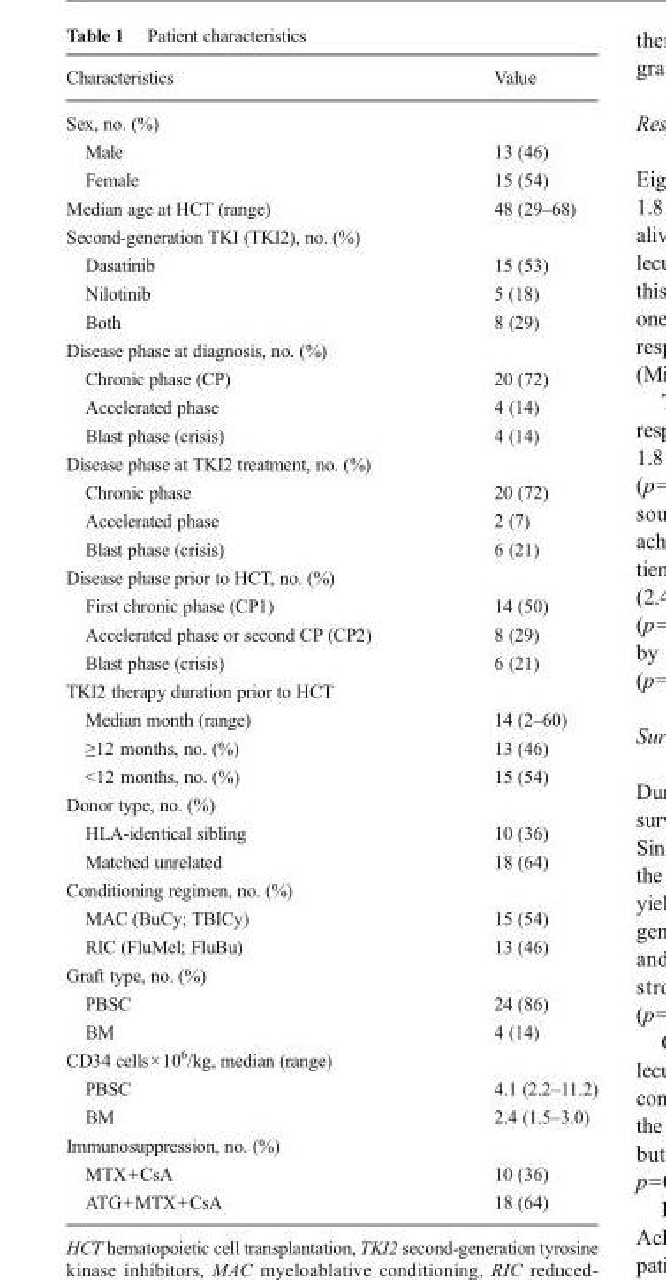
<table><thead><tr><td>Characteristics</td><td>Value</td></tr></thead><tbody><tr><td colspan="2">Sex, no. (%)</td></tr><tr><td>Male</td><td>13 (46)</td></tr><tr><td>Female</td><td>15 (54)</td></tr><tr><td>Median age at HCT (range)</td><td>48 (29–68)</td></tr><tr><td colspan="2">Second-generation TKI (TKI2), no. (%)</td></tr><tr><td>Dasatinib</td><td>15 (53)</td></tr><tr><td>Nilotinib</td><td>5 (18)</td></tr><tr><td>Both</td><td>8 (29)</td></tr><tr><td colspan="2">Disease phase at diagnosis, no. (%)</td></tr><tr><td>Chronic phase (CP)</td><td>20 (72)</td></tr><tr><td>Accelerated phase</td><td>4 (14)</td></tr><tr><td>Blast phase (crisis)</td><td>4 (14)</td></tr><tr><td colspan="2">Disease phase at TKI2 treatment, no. (%)</td></tr><tr><td>Chronic phase</td><td>20 (72)</td></tr><tr><td>Accelerated phase</td><td>2 (7)</td></tr><tr><td>Blast phase (crisis)</td><td>6 (21)</td></tr><tr><td colspan="2">Disease phase prior to HCT, no. (%)</td></tr><tr><td>First chronic phase (CP1)</td><td>14 (50)</td></tr><tr><td>Accelerated phase or second CP (CP2)</td><td>8 (29)</td></tr><tr><td>Blast phase (crisis)</td><td>6 (21)</td></tr><tr><td colspan="2">TKI2 therapy duration prior to HCT</td></tr><tr><td>Median month (range)</td><td>14 (2–60)</td></tr><tr><td>≥12 months, no. (%)</td><td>13 (46)</td></tr><tr><td>&lt;12 months, no. (%)</td><td>15 (54)</td></tr><tr><td colspan="2">Donor type, no. (%)</td></tr><tr><td>HLA-identical sibling</td><td>10 (36)</td></tr><tr><td>Matched unrelated</td><td>18 (64)</td></tr><tr><td colspan="2">Conditioning regimen, no. (%)</td></tr><tr><td>MAC (BuCy; TBICy)</td><td>15 (54)</td></tr><tr><td>RIC (FluMel; FluBu)</td><td>13 (46)</td></tr><tr><td colspan="2">Graft type, no. (%)</td></tr><tr><td>PBSC</td><td>24 (86)</td></tr><tr><td>BM</td><td>4 (14)</td></tr><tr><td colspan="2">CD34 cells×10<sup>6</sup>/kg, median (range)</td></tr><tr><td>PBSC</td><td>4.1 (2.2–11.2)</td></tr><tr><td>BM</td><td>2.4 (1.5–3.0)</td></tr><tr><td colspan="2">Immunosuppression, no. (%)</td></tr><tr><td>MTX+CsA</td><td>10 (36)</td></tr><tr><td>ATG+MTX+CsA</td><td>18 (64)</td></tr></tbody></table>